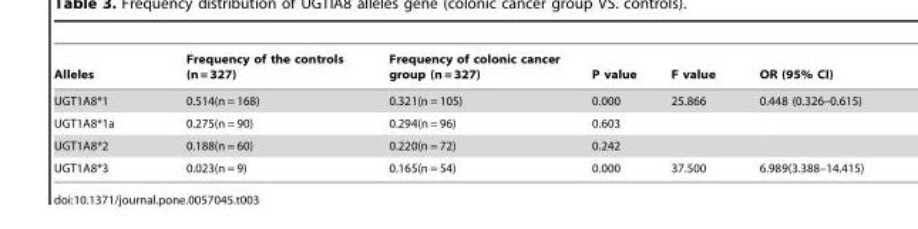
<table><thead><tr><td>Alleles</td><td>Frequency of the controls (n = 327)</td><td>Frequency of colonic cancer group (n = 327)</td><td>P value</td><td>F value</td><td>OR (95% CI)</td></tr></thead><tbody><tr><td>UGT1A8*1</td><td>0.514(n = 168)</td><td>0.321(n = 105)</td><td>0.000</td><td>25.866</td><td>0.448 (0.326–0.615)</td></tr><tr><td>UGT1A8*1a</td><td>0.275(n = 90)</td><td>0.294(n = 96)</td><td>0.603</td><td></td><td></td></tr><tr><td>UGT1A8*2</td><td>0.188(n = 60)</td><td>0.220(n = 72)</td><td>0.242</td><td></td><td></td></tr><tr><td>UGT1A8*3</td><td>0.023(n = 9)</td><td>0.165(n = 54)</td><td>0.000</td><td>37.500</td><td>6.989(3.388–14.415)</td></tr></tbody></table>